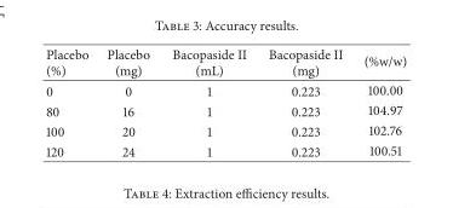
<table><thead><tr><td>Placebo (%)</td><td>Placebo (mg)</td><td>Bacopaside II (mL)</td><td>Bacopaside II (mg)</td><td>(%w/w)</td></tr></thead><tbody><tr><td>0</td><td>0</td><td>1</td><td>0.223</td><td>100.00</td></tr><tr><td>80</td><td>16</td><td>1</td><td>0.223</td><td>104.97</td></tr><tr><td>100</td><td>20</td><td>1</td><td>0.223</td><td>102.76</td></tr><tr><td>120</td><td>24</td><td>1</td><td>0.223</td><td>100.51</td></tr></tbody></table>